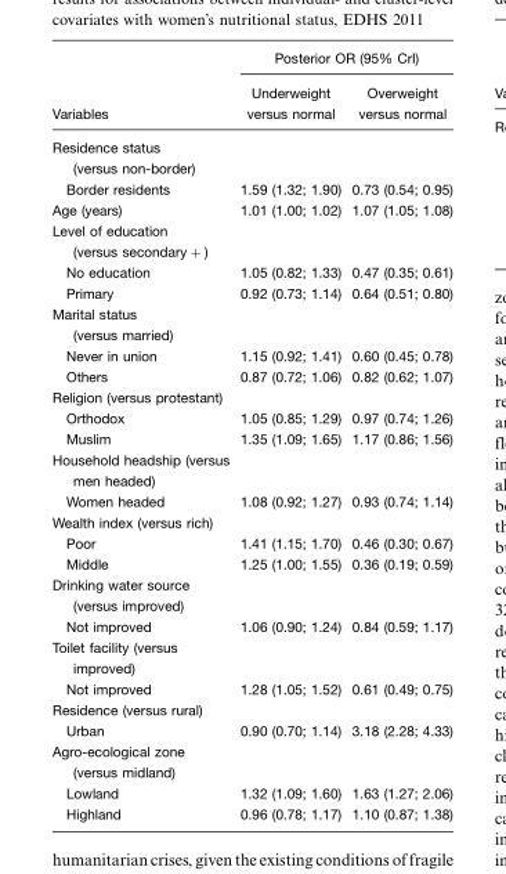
<table><thead><tr><td rowspan="2">Variables</td><td colspan="2">Posterior OR (95% CrI)</td></tr><tr><td>Underweight versus normal</td><td>Overweight versus normal</td></tr></thead><tbody><tr><td colspan="3">Residence status (versus non-border)</td></tr><tr><td>Border residents</td><td>1.59 (1.32; 1.90)</td><td>0.73 (0.54; 0.95)</td></tr><tr><td>Age (years)</td><td>1.01 (1.00; 1.02)</td><td>1.07 (1.05; 1.08)</td></tr><tr><td colspan="3">Level of education (versus secondary+)</td></tr><tr><td>No education</td><td>1.05 (0.82; 1.33)</td><td>0.47 (0.35; 0.61)</td></tr><tr><td>Primary</td><td>0.92 (0.73; 1.14)</td><td>0.64 (0.51; 0.80)</td></tr><tr><td colspan="3">Marital status (versus married)</td></tr><tr><td>Never in union</td><td>1.15 (0.92; 1.41)</td><td>0.60 (0.45; 0.78)</td></tr><tr><td>Others</td><td>0.87 (0.72; 1.06)</td><td>0.82 (0.62; 1.07)</td></tr><tr><td colspan="3">Religion (versus protestant)</td></tr><tr><td>Orthodox</td><td>1.05 (0.85; 1.29)</td><td>0.97 (0.74; 1.26)</td></tr><tr><td>Muslim</td><td>1.35 (1.09; 1.65)</td><td>1.17 (0.86; 1.56)</td></tr><tr><td colspan="3">Household headship (versus men headed)</td></tr><tr><td>Women headed</td><td>1.08 (0.92; 1.27)</td><td>0.93 (0.74; 1.14)</td></tr><tr><td colspan="3">Wealth index (versus rich)</td></tr><tr><td>Poor</td><td>1.41 (1.15; 1.70)</td><td>0.46 (0.30; 0.67)</td></tr><tr><td>Middle</td><td>1.25 (1.00; 1.55)</td><td>0.36 (0.19; 0.59)</td></tr><tr><td colspan="3">Drinking water source (versus improved)</td></tr><tr><td>Not improved</td><td>1.06 (0.90; 1.24)</td><td>0.84 (0.59; 1.17)</td></tr><tr><td colspan="3">Toilet facility (versus improved)</td></tr><tr><td>Not improved</td><td>1.28 (1.05; 1.52)</td><td>0.61 (0.49; 0.75)</td></tr><tr><td colspan="3">Residence (versus rural)</td></tr><tr><td>Urban</td><td>0.90 (0.70; 1.14)</td><td>3.18 (2.28; 4.33)</td></tr><tr><td colspan="3">Agro-ecological zone (versus midland)</td></tr><tr><td>Lowland</td><td>1.32 (1.09; 1.60)</td><td>1.63 (1.27; 2.06)</td></tr><tr><td>Highland</td><td>0.96 (0.78; 1.17)</td><td>1.10 (0.87; 1.38)</td></tr></tbody></table>